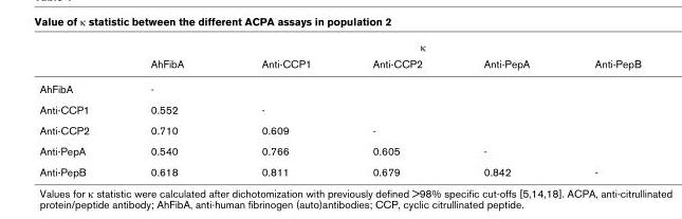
<table><thead><tr><td rowspan="2"></td><td colspan="5">κ</td></tr><tr><td>AhFibA</td><td>Anti-CCP1</td><td>Anti-CCP2</td><td>Anti-PepA</td><td>Anti-PepB</td></tr></thead><tbody><tr><td>AhFibA</td><td>-</td><td></td><td></td><td></td><td></td></tr><tr><td>Anti-CCP1</td><td>0.552</td><td>-</td><td></td><td></td><td></td></tr><tr><td>Anti-CCP2</td><td>0.710</td><td>0.609</td><td>-</td><td></td><td></td></tr><tr><td>Anti-PepA</td><td>0.540</td><td>0.766</td><td>0.605</td><td>-</td><td></td></tr><tr><td>Anti-PepB</td><td>0.618</td><td>0.811</td><td>0.679</td><td>0.842</td><td>-</td></tr></tbody></table>